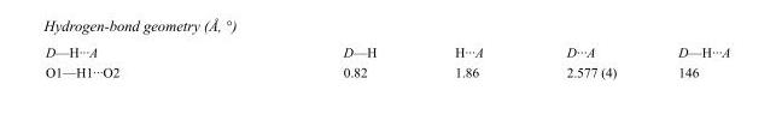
<table><tbody><tr><td>D—H···A</td><td>D—H</td><td>H···A</td><td>D···A</td><td>D—H···A</td></tr><tr><td>O1—H1···O2</td><td>0.82</td><td>1.86</td><td>2.577 (4)</td><td>146</td></tr></tbody></table>